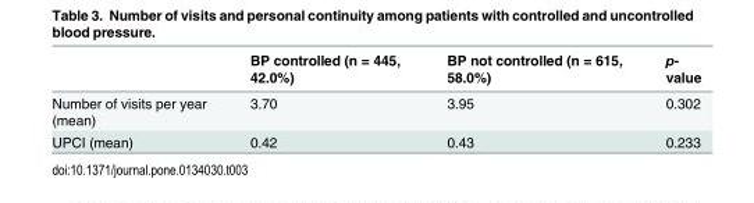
<table><thead><tr><td></td><td>BP controlled (n = 445, 42.0%)</td><td>BP not controlled (n = 615, 58.0%)</td><td>p- value</td></tr></thead><tbody><tr><td>Number of visits per year (mean)</td><td>3.70</td><td>3.95</td><td>0.302</td></tr><tr><td>UPCI (mean)</td><td>0.42</td><td>0.43</td><td>0.233</td></tr></tbody></table>